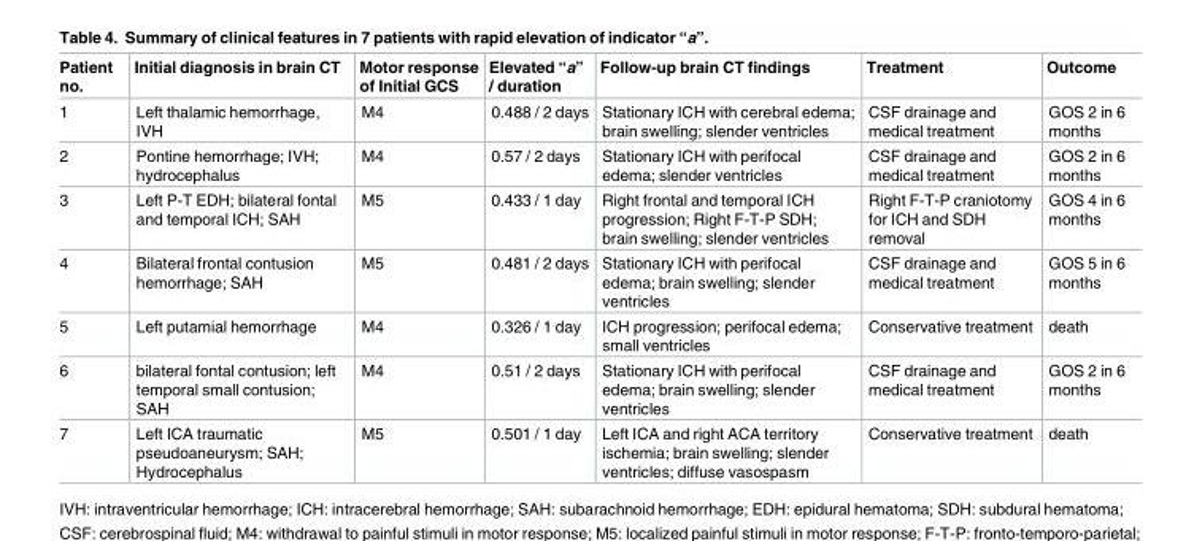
<table><thead><tr><td>Patient no.</td><td>Initial diagnosis in brain CT</td><td>Motor response of Initial GCS</td><td>Elevated “a” / duration</td><td>Follow-up brain CT findings</td><td>Treatment</td><td>Outcome</td></tr></thead><tbody><tr><td>1</td><td>Left thalamic hemorrhage, IVH</td><td>M4</td><td>0.488 / 2 days</td><td>Stationary ICH with cerebral edema; brain swelling; slender ventricles</td><td>CSF drainage and medical treatment</td><td>GOS 2 in 6 months</td></tr><tr><td>2</td><td>Pontine hemorrhage; IVH; hydrocephalus</td><td>M4</td><td>0.57 / 2 days</td><td>Stationary ICH with perifocal edema; slender ventricles</td><td>CSF drainage and medical treatment</td><td>GOS 2 in 6 months</td></tr><tr><td>3</td><td>Left P-T EDH; bilateral fontal and temporal ICH; SAH</td><td>M5</td><td>0.433 / 1 day</td><td>Right frontal and temporal ICH progression; Right F-T-P SDH; brain swelling; slender ventricles</td><td>Right F-T-P craniotomy for ICH and SDH removal</td><td>GOS 4 in 6 months</td></tr><tr><td>4</td><td>Bilateral frontal contusion hemorrhage; SAH</td><td>M5</td><td>0.481 / 2 days</td><td>Stationary ICH with perifocal edema; brain swelling; slender ventricles</td><td>CSF drainage and medical treatment</td><td>GOS 5 in 6 months</td></tr><tr><td>5</td><td>Left putamial hemorrhage</td><td>M4</td><td>0.326 / 1 day</td><td>ICH progression; perifocal edema; small ventricles</td><td>Conservative treatment</td><td>death</td></tr><tr><td>6</td><td>bilateral fontal contusion; left temporal small contusion; SAH</td><td>M4</td><td>0.51 / 2 days</td><td>Stationary ICH with perifocal edema; brain swelling; slender ventricles</td><td>CSF drainage and medical treatment</td><td>GOS 2 in 6 months</td></tr><tr><td>7</td><td>Left ICA traumatic pseudoaneurysm; SAH; Hydrocephalus</td><td>M5</td><td>0.501 / 1 day</td><td>Left ICA and right ACA territory ischemia; brain swelling; slender ventricles; diffuse vasospasm</td><td>Conservative treatment</td><td>death</td></tr></tbody></table>